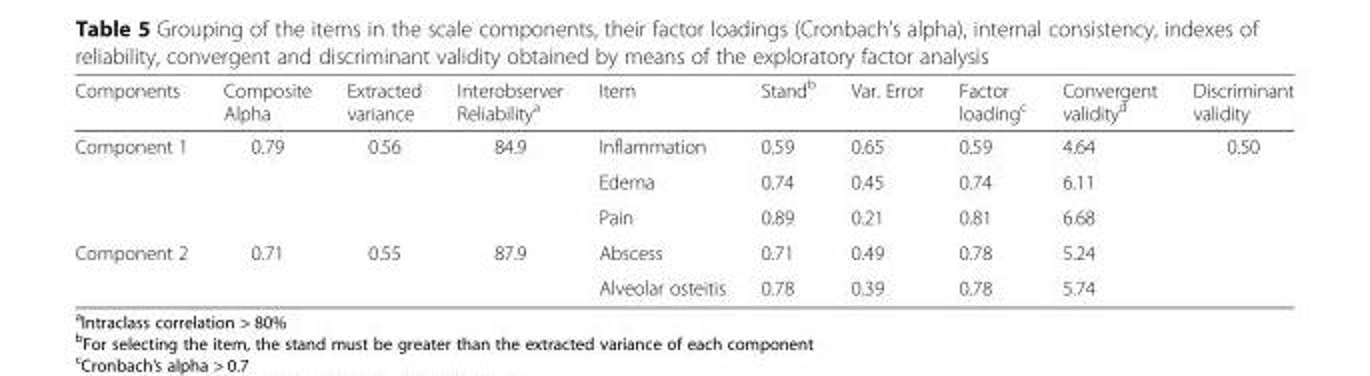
<table><thead><tr><td>Components</td><td>Composite Alpha</td><td>Extracted variance</td><td>Interobserver Reliability<sup>a</sup></td><td>Item</td><td>Stand<sup>b</sup></td><td>Var. Error</td><td>Factor loading<sup>c</sup></td><td>Convergent validity<sup>d</sup></td><td>Discriminant validity</td></tr></thead><tbody><tr><td rowspan="3">Component 1</td><td rowspan="3">0.79</td><td rowspan="3">0.56</td><td rowspan="3">84.9</td><td>Inflammation</td><td>0.59</td><td>0.65</td><td>0.59</td><td>4.64</td><td rowspan="5">0.50</td></tr><tr><td>Edema</td><td>0.74</td><td>0.45</td><td>0.74</td><td>6.11</td></tr><tr><td>Pain</td><td>0.89</td><td>0.21</td><td>0.81</td><td>6.68</td></tr><tr><td rowspan="2">Component 2</td><td rowspan="2">0.71</td><td rowspan="2">0.55</td><td rowspan="2">87.9</td><td>Abscess</td><td>0.71</td><td>0.49</td><td>0.78</td><td>5.24</td></tr><tr><td>Alveolar osteitis</td><td>0.78</td><td>0.39</td><td>0.78</td><td>5.74</td></tr></tbody></table>